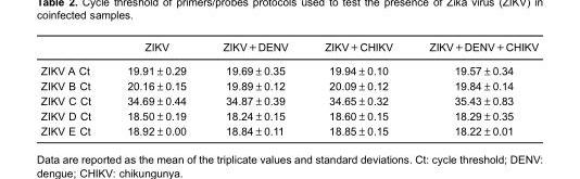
<table><thead><tr><td></td><td>ZIKV</td><td>ZIKV+DENV</td><td>ZIKV+CHIKV</td><td>ZIKV+DENV+CHIKV</td></tr></thead><tbody><tr><td>ZIKV A Ct</td><td>19.91±0.29</td><td>19.69±0.35</td><td>19.94±0.10</td><td>19.57±0.34</td></tr><tr><td>ZIKV B Ct</td><td>20.16±0.15</td><td>19.89±0.12</td><td>20.09±0.12</td><td>19.84±0.14</td></tr><tr><td>ZIKV C Ct</td><td>34.69±0.44</td><td>34.87±0.39</td><td>34.65±0.32</td><td>35.43±0.83</td></tr><tr><td>ZIKV D Ct</td><td>18.50±0.19</td><td>18.24±0.15</td><td>18.60±0.15</td><td>18.29±0.35</td></tr><tr><td>ZIKV E Ct</td><td>18.92±0.00</td><td>18.84±0.11</td><td>18.85±0.15</td><td>18.22±0.01</td></tr></tbody></table>